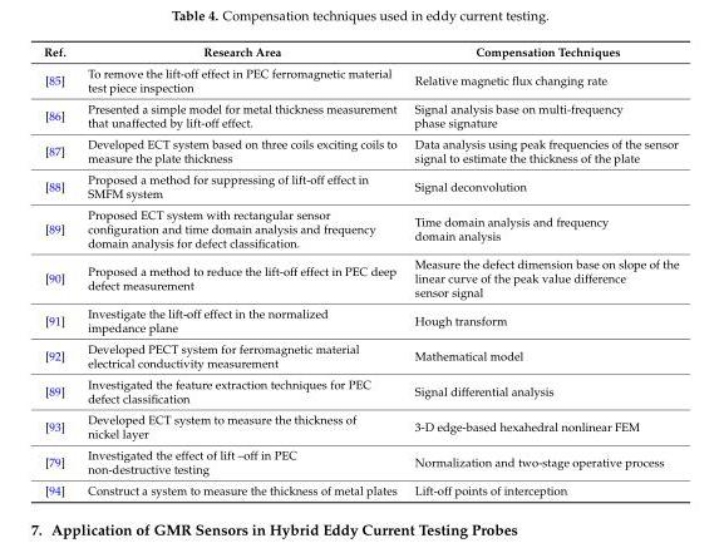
<table><thead><tr><td>Ref.</td><td>Research Area</td><td>Compensation Techniques</td></tr></thead><tbody><tr><td>[85]</td><td>To remove the lift-off effect in PEC ferromagnetic material test piece inspection</td><td>Relative magnetic flux changing rate</td></tr><tr><td>[86]</td><td>Presented a simple model for metal thickness measurement that unaffected by lift-off effect.</td><td>Signal analysis base on multi-frequency phase signature</td></tr><tr><td>[87]</td><td>Developed ECT system based on three coils exciting coils to measure the plate thickness</td><td>Data analysis using peak frequencies of the sensor signal to estimate the thickness of the plate</td></tr><tr><td>[88]</td><td>Proposed a method for suppressing of lift-off effect in SMFM system</td><td>Signal deconvolution</td></tr><tr><td>[89]</td><td>Proposed ECT system with rectangular sensor configuration and time domain analysis and frequency domain analysis for defect classification.</td><td>Time domain analysis and frequency domain analysis</td></tr><tr><td>[90]</td><td>Proposed a method to reduce the lift-off effect in PEC deep defect measurement</td><td>Measure the defect dimension base on slope of the linear curve of the peak value difference sensor signal</td></tr><tr><td>[91]</td><td>Investigate the lift-off effect in the normalized impedance plane</td><td>Hough transform</td></tr><tr><td>[92]</td><td>Developed PECT system for ferromagnetic material electrical conductivity measurement</td><td>Mathematical model</td></tr><tr><td>[89]</td><td>Investigated the feature extraction techniques for PEC defect classification</td><td>Signal differential analysis</td></tr><tr><td>[93]</td><td>Developed ECT system to measure the thickness of nickel layer</td><td>3-D edge-based hexahedral nonlinear FEM</td></tr><tr><td>[79]</td><td>Investigated the effect of lift –off in PEC non-destructive testing</td><td>Normalization and two-stage operative process</td></tr><tr><td>[94]</td><td>Construct a system to measure the thickness of metal plates</td><td>Lift-off points of interception</td></tr></tbody></table>